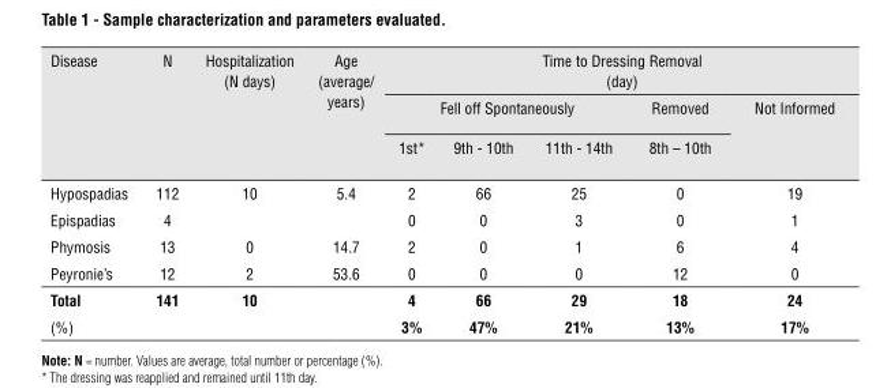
<table><thead><tr><td rowspan="3">Disease</td><td rowspan="3">N</td><td rowspan="3">Hospitalization (N days)</td><td rowspan="3">Age (average/ years)</td><td colspan="5">Time to Dressing Removal (day)</td></tr><tr><td colspan="3">Fell off Spontaneously</td><td rowspan="2">Removed 8th – 10th</td><td rowspan="2">Not Informed</td></tr><tr><td>1st*</td><td>9th - 10th</td><td>11th - 14th</td></tr></thead><tbody><tr><td>Hypospadias</td><td>112</td><td>10</td><td>5.4</td><td>2</td><td>66</td><td>25</td><td>0</td><td>19</td></tr><tr><td>Epispadias</td><td>4</td><td></td><td></td><td>0</td><td>0</td><td>3</td><td>0</td><td>1</td></tr><tr><td>Phymosis</td><td>13</td><td>0</td><td>14.7</td><td>2</td><td>0</td><td>1</td><td>6</td><td>4</td></tr><tr><td>Peyronie’s</td><td>12</td><td>2</td><td>53.6</td><td>0</td><td>0</td><td>0</td><td>12</td><td>0</td></tr><tr><td>Total</td><td>141</td><td>10</td><td></td><td>4</td><td>66</td><td>29</td><td>18</td><td>24</td></tr><tr><td>(%)</td><td></td><td></td><td></td><td>3%</td><td>47%</td><td>21%</td><td>13%</td><td>17%</td></tr></tbody></table>